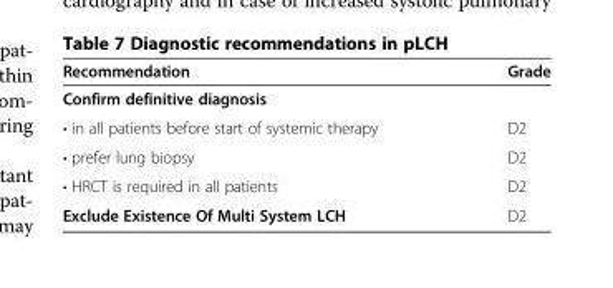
<table><thead><tr><td>Recommendation</td><td>Grade</td></tr></thead><tbody><tr><td colspan="2">Confirm definitive diagnosis</td></tr><tr><td>• in all patients before start of systemic therapy</td><td>D2</td></tr><tr><td>• prefer lung biopsy</td><td>D2</td></tr><tr><td>• HRCT is required in all patients</td><td>D2</td></tr><tr><td>Exclude Existence Of Multi System LCH</td><td>D2</td></tr></tbody></table>